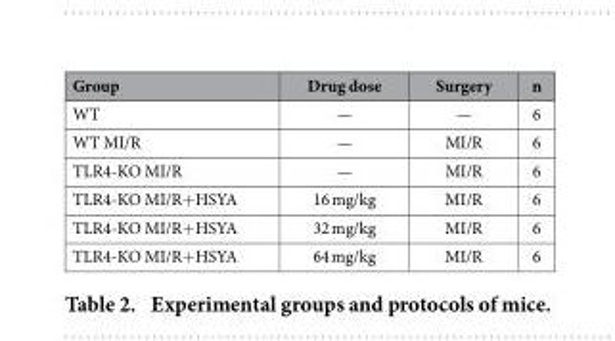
<table><thead><tr><td>Group</td><td>Drug dose</td><td>Surgery</td><td>n</td></tr></thead><tbody><tr><td>WT</td><td>—</td><td>—</td><td>6</td></tr><tr><td>WT MI/R</td><td>—</td><td>MI/R</td><td>6</td></tr><tr><td>TLR4-KO MI/R</td><td>—</td><td>MI/R</td><td>6</td></tr><tr><td>TLR4-KO MI/R+ HSYA</td><td>16 mg/kg</td><td>MI/R</td><td>6</td></tr><tr><td>TLR4-KO MI/R+ HSYA</td><td>32 mg/kg</td><td>MI/R</td><td>6</td></tr><tr><td>TLR4-KO MI/R+ HSYA</td><td>64 mg/kg</td><td>MI/R</td><td>6</td></tr></tbody></table>